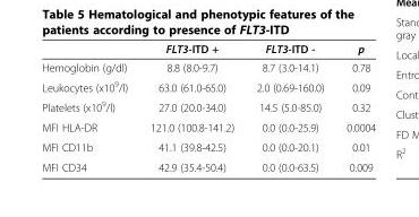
<table><thead><tr><td></td><td>FLT3-ITD +</td><td>FLT3-ITD -</td><td>p</td></tr></thead><tbody><tr><td>Hemoglobin (g/dl)</td><td>8.8 (8.0-9.7)</td><td>8.7 (3.0-14.1)</td><td>0.78</td></tr><tr><td>Leukocytes (x10<sup>9</sup>/l)</td><td>63.0 (61.0-65.0)</td><td>2.0 (0.69-160.0)</td><td>0.09</td></tr><tr><td>Platelets (x10<sup>9</sup>/l)</td><td>27.0 (20.0-34.0)</td><td>14.5 (5.0-85.0)</td><td>0.32</td></tr><tr><td>MFI HLA-DR</td><td>121.0 (100.8-141.2)</td><td>0.0 (0.0-25.9)</td><td>0.0004</td></tr><tr><td>MFI CD11b</td><td>41.1 (39.8-42.5)</td><td>0.0 (0.0-20.1)</td><td>0.01</td></tr><tr><td>MFI CD34</td><td>42.9 (35.4-50.4)</td><td>0.0 (0.0-63.5)</td><td>0.009</td></tr></tbody></table>